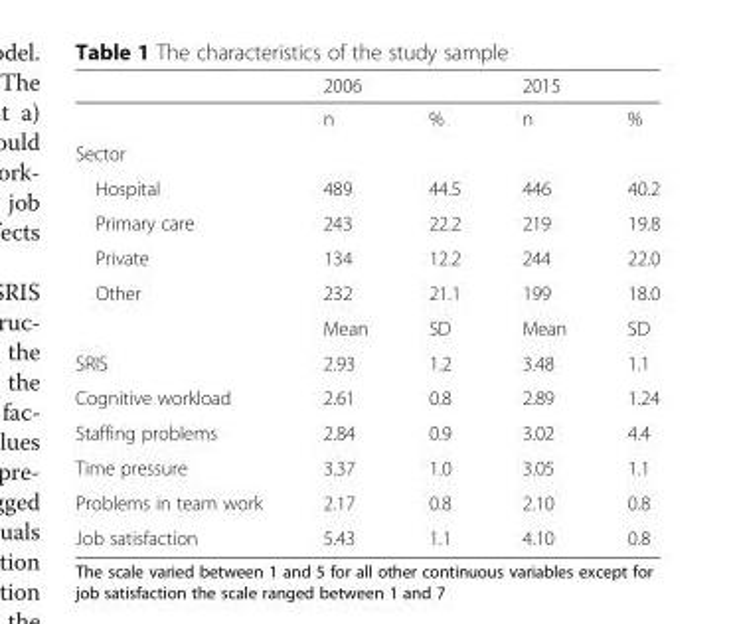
<table><thead><tr><td rowspan="2"></td><td colspan="2">2006</td><td colspan="2">2015</td></tr><tr><td>n</td><td>%</td><td>n</td><td>%</td></tr></thead><tbody><tr><td colspan="5">Sector</td></tr><tr><td>Hospital</td><td>489</td><td>44.5</td><td>446</td><td>40.2</td></tr><tr><td>Primary care</td><td>243</td><td>22.2</td><td>219</td><td>19.8</td></tr><tr><td>Private</td><td>134</td><td>12.2</td><td>244</td><td>22.0</td></tr><tr><td rowspan="2">Other</td><td>232</td><td>21.1</td><td>199</td><td>18.0</td></tr><tr><td>Mean</td><td>SD</td><td>Mean</td><td>SD</td></tr><tr><td>SRIS</td><td>2.93</td><td>1.2</td><td>3.48</td><td>1.1</td></tr><tr><td>Cognitive workload</td><td>2.61</td><td>0.8</td><td>2.89</td><td>1.24</td></tr><tr><td>Staffing problems</td><td>2.84</td><td>0.9</td><td>3.02</td><td>4.4</td></tr><tr><td>Time pressure</td><td>3.37</td><td>1.0</td><td>3.05</td><td>1.1</td></tr><tr><td>Problems in team work</td><td>2.17</td><td>0.8</td><td>2.10</td><td>0.8</td></tr><tr><td>Job satisfaction</td><td>5.43</td><td>1.1</td><td>4.10</td><td>0.8</td></tr></tbody></table>